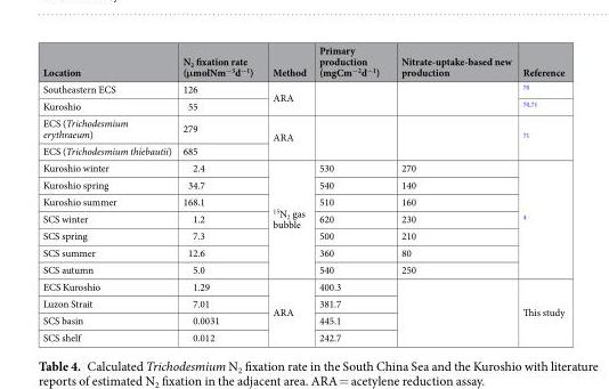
<table><thead><tr><td>Location</td><td>N<sub>2</sub> fixation rate (μmolNm<sup>−3</sup>d<sup>−1</sup>)</td><td>Method</td><td>Primary production (mgCm<sup>−2</sup>d<sup>−1</sup>)</td><td>Nitrate-uptake-based new production</td><td>Reference</td></tr></thead><tbody><tr><td>Southeastern ECS</td><td>126</td><td rowspan="2">ARA</td><td rowspan="2"></td><td rowspan="2"></td><td><sup>70</sup></td></tr><tr><td>Kuroshio</td><td>55</td><td><sup>70,71</sup></td></tr><tr><td>ECS (Trichodesmium erythraeum)</td><td>279</td><td rowspan="2">ARA</td><td rowspan="2"></td><td rowspan="2"></td><td rowspan="2"><sup>71</sup></td></tr><tr><td>ECS (Trichodesmium thiebautii)</td><td>685</td></tr><tr><td>Kuroshio winter</td><td>2.4</td><td rowspan="7"><sup>15</sup>N<sub>2</sub> gas bubble</td><td>530</td><td>270</td><td rowspan="7"><sup>4</sup></td></tr><tr><td>Kuroshio spring</td><td>34.7</td><td>540</td><td>140</td></tr><tr><td>Kuroshio summer</td><td>168.1</td><td>510</td><td>160</td></tr><tr><td>SCS winter</td><td>1.2</td><td>620</td><td>230</td></tr><tr><td>SCS spring</td><td>7.3</td><td>500</td><td>210</td></tr><tr><td>SCS summer</td><td>12.6</td><td>360</td><td>80</td></tr><tr><td>SCS autumn</td><td>5.0</td><td>540</td><td>250</td></tr><tr><td>ECS Kuroshio</td><td>1.29</td><td rowspan="4">ARA</td><td>400.3</td><td rowspan="4"></td><td rowspan="4">This study</td></tr><tr><td>Luzon Strait</td><td>7.01</td><td>381.7</td></tr><tr><td>SCS basin</td><td>0.0031</td><td>445.1</td></tr><tr><td>SCS shelf</td><td>0.012</td><td>242.7</td></tr></tbody></table>